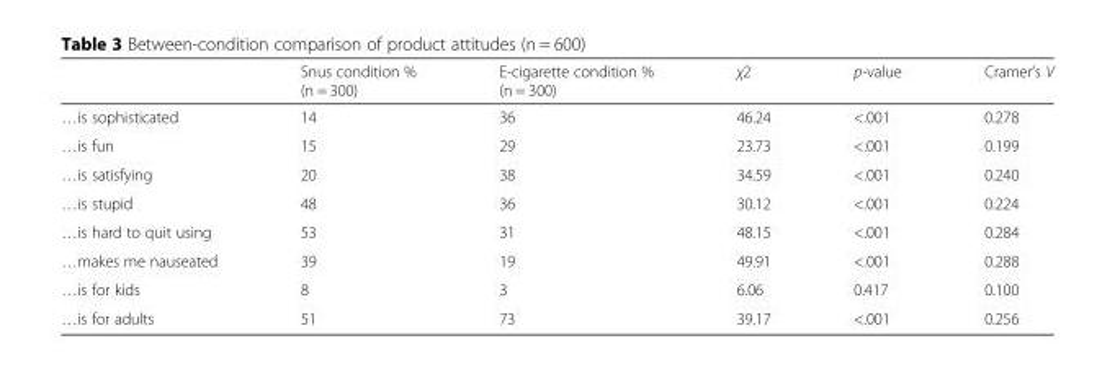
<table><thead><tr><td></td><td>Snus condition % (n = 300)</td><td>E-cigarette condition % (n = 300)</td><td>χ2</td><td>p-value</td><td>Cramer’s V</td></tr></thead><tbody><tr><td>…is sophisticated</td><td>14</td><td>36</td><td>46.24</td><td>&lt;.001</td><td>0.278</td></tr><tr><td>…is fun</td><td>15</td><td>29</td><td>23.73</td><td>&lt;.001</td><td>0.199</td></tr><tr><td>…is satisfying</td><td>20</td><td>38</td><td>34.59</td><td>&lt;.001</td><td>0.240</td></tr><tr><td>…is stupid</td><td>48</td><td>36</td><td>30.12</td><td>&lt;.001</td><td>0.224</td></tr><tr><td>…is hard to quit using</td><td>53</td><td>31</td><td>48.15</td><td>&lt;.001</td><td>0.284</td></tr><tr><td>…makes me nauseated</td><td>39</td><td>19</td><td>49.91</td><td>&lt;.001</td><td>0.288</td></tr><tr><td>…is for kids</td><td>8</td><td>3</td><td>6.06</td><td>0.417</td><td>0.100</td></tr><tr><td>…is for adults</td><td>51</td><td>73</td><td>39.17</td><td>&lt;.001</td><td>0.256</td></tr></tbody></table>